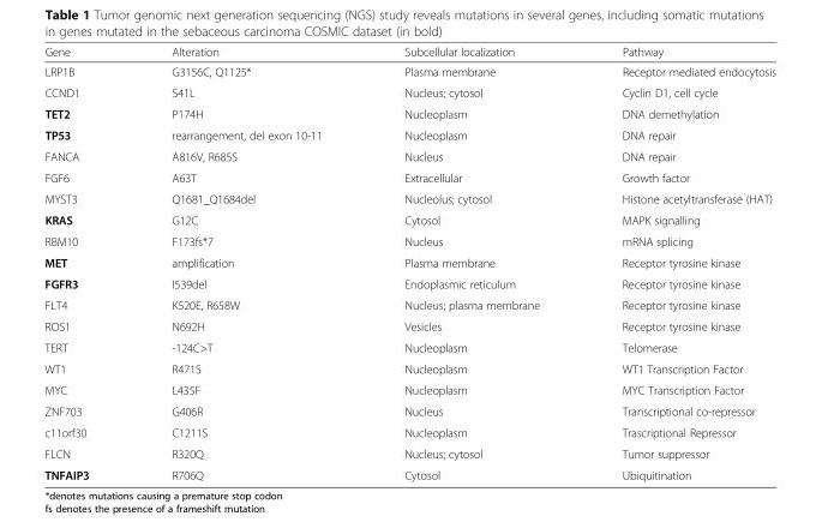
<table><thead><tr><td>Gene</td><td>Alteration</td><td>Subcellular localization</td><td>Pathway</td></tr></thead><tbody><tr><td>LRP1B</td><td>G3156C, Q1125*</td><td>Plasma membrane</td><td>Receptor mediated endocytosis</td></tr><tr><td>CCND1</td><td>S41L</td><td>Nucleus; cytosol</td><td>Cyclin D1, cell cycle</td></tr><tr><td>TET2</td><td>P174H</td><td>Nucleoplasm</td><td>DNA demethylation</td></tr><tr><td>TP53</td><td>rearrangement, del exon 10-11</td><td>Nucleoplasm</td><td>DNA repair</td></tr><tr><td>FANCA</td><td>A816V, R685S</td><td>Nucleus</td><td>DNA repair</td></tr><tr><td>FGF6</td><td>A63T</td><td>Extracellular</td><td>Growth factor</td></tr><tr><td>MYST3</td><td>Q1681_Q1684del</td><td>Nucleolus; cytosol</td><td>Histone acetyltransferase (HAT)</td></tr><tr><td>KRAS</td><td>G12C</td><td>Cytosol</td><td>MAPK signalling</td></tr><tr><td>RBM10</td><td>F173fs*7</td><td>Nucleus</td><td>mRNA splicing</td></tr><tr><td>MET</td><td>amplification</td><td>Plasma membrane</td><td>Receptor tyrosine kinase</td></tr><tr><td>FGFR3</td><td>I539del</td><td>Endoplasmic reticulum</td><td>Receptor tyrosine kinase</td></tr><tr><td>FLT4</td><td>K520E, R658W</td><td>Nucleus; plasma membrane</td><td>Receptor tyrosine kinase</td></tr><tr><td>ROS1</td><td>N692H</td><td>Vesicles</td><td>Receptor tyrosine kinase</td></tr><tr><td>TERT</td><td>-124C&gt;T</td><td>Nucleoplasm</td><td>Telomerase</td></tr><tr><td>WT1</td><td>R471S</td><td>Nucleoplasm</td><td>WT1 Transcription Factor</td></tr><tr><td>MYC</td><td>L435F</td><td>Nucleoplasm</td><td>MYC Transcription Factor</td></tr><tr><td>ZNF703</td><td>G406R</td><td>Nucleus</td><td>Transcriptional co-repressor</td></tr><tr><td>c11orf30</td><td>C1211S</td><td>Nucleoplasm</td><td>Trascriptional Repressor</td></tr><tr><td>FLCN</td><td>R320Q</td><td>Nucleus; cytosol</td><td>Tumor suppressor</td></tr><tr><td>TNFAIP3</td><td>R706Q</td><td>Cytosol</td><td>Ubiquitination</td></tr></tbody></table>